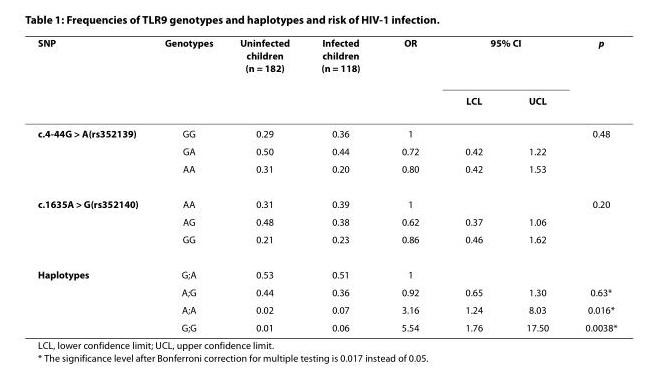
<table><thead><tr><td rowspan="2">SNP</td><td rowspan="2">Genotypes</td><td rowspan="2">Uninfected children (n = 182)</td><td rowspan="2">Infected children (n = 118)</td><td rowspan="2">OR</td><td colspan="2">95% CI</td><td rowspan="2">p</td></tr><tr><td>LCL</td><td>UCL</td></tr></thead><tbody><tr><td rowspan="3">c.4-44G &gt; A(rs352139)</td><td>GG</td><td>0.29</td><td>0.36</td><td>1</td><td></td><td></td><td>0.48</td></tr><tr><td>GA</td><td>0.50</td><td>0.44</td><td>0.72</td><td>0.42</td><td>1.22</td><td></td></tr><tr><td>AA</td><td>0.31</td><td>0.20</td><td>0.80</td><td>0.42</td><td>1.53</td><td></td></tr><tr><td rowspan="3">c.1635A &gt; G(rs352140)</td><td>AA</td><td>0.31</td><td>0.39</td><td>1</td><td></td><td></td><td>0.20</td></tr><tr><td>AG</td><td>0.48</td><td>0.38</td><td>0.62</td><td>0.37</td><td>1.06</td><td></td></tr><tr><td>GG</td><td>0.21</td><td>0.23</td><td>0.86</td><td>0.46</td><td>1.62</td><td></td></tr><tr><td rowspan="4">Haplotypes</td><td>G;A</td><td>0.53</td><td>0.51</td><td>1</td><td></td><td></td><td></td></tr><tr><td>A;G</td><td>0.44</td><td>0.36</td><td>0.92</td><td>0.65</td><td>1.30</td><td>0.63*</td></tr><tr><td>A;A</td><td>0.02</td><td>0.07</td><td>3.16</td><td>1.24</td><td>8.03</td><td>0.016*</td></tr><tr><td>G;G</td><td>0.01</td><td>0.06</td><td>5.54</td><td>1.76</td><td>17.50</td><td>0.0038*</td></tr></tbody></table>